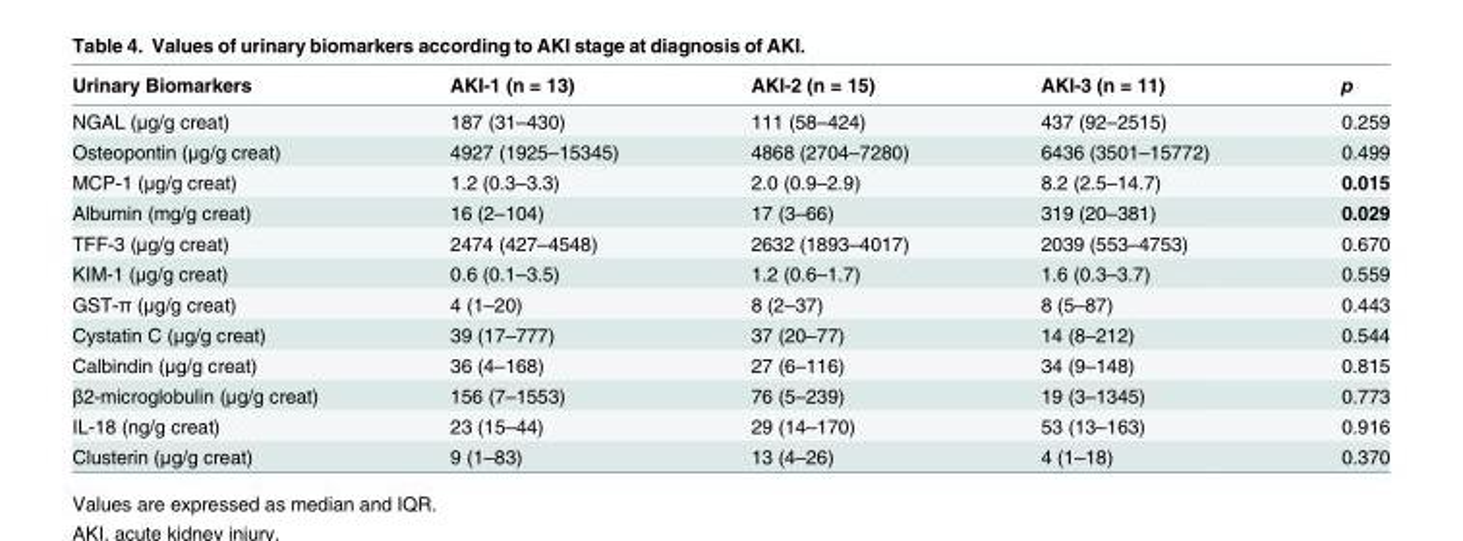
<table><thead><tr><td>Urinary Biomarkers</td><td>AKI-1 (n = 13)</td><td>AKI-2 (n = 15)</td><td>AKI-3 (n = 11)</td><td>p</td></tr></thead><tbody><tr><td>NGAL (μg/g creat)</td><td>187 (31–430)</td><td>111 (58–424)</td><td>437 (92–2515)</td><td>0.259</td></tr><tr><td>Osteopontin (μg/g creat)</td><td>4927 (1925–15345)</td><td>4868 (2704–7280)</td><td>6436 (3501–15772)</td><td>0.499</td></tr><tr><td>MCP-1 (μg/g creat)</td><td>1.2 (0.3–3.3)</td><td>2.0 (0.9–2.9)</td><td>8.2 (2.5–14.7)</td><td>0.015</td></tr><tr><td>Albumin (mg/g creat)</td><td>16 (2–104)</td><td>17 (3–66)</td><td>319 (20–381)</td><td>0.029</td></tr><tr><td>TFF-3 (μg/g creat)</td><td>2474 (427–4548)</td><td>2632 (1893–4017)</td><td>2039 (553–4753)</td><td>0.670</td></tr><tr><td>KIM-1 (μg/g creat)</td><td>0.6 (0.1–3.5)</td><td>1.2 (0.6–1.7)</td><td>1.6 (0.3–3.7)</td><td>0.559</td></tr><tr><td>GST-π (μg/g creat)</td><td>4 (1–20)</td><td>8 (2–37)</td><td>8 (5–87)</td><td>0.443</td></tr><tr><td>Cystatin C (μg/g creat)</td><td>39 (17–777)</td><td>37 (20–77)</td><td>14 (8–212)</td><td>0.544</td></tr><tr><td>Calbindin (μg/g creat)</td><td>36 (4–168)</td><td>27 (6–116)</td><td>34 (9–148)</td><td>0.815</td></tr><tr><td>β2-microglobulin (μg/g creat)</td><td>156 (7–1553)</td><td>76 (5–239)</td><td>19 (3–1345)</td><td>0.773</td></tr><tr><td>IL-18 (ng/g creat)</td><td>23 (15–44)</td><td>29 (14–170)</td><td>53 (13–163)</td><td>0.916</td></tr><tr><td>Clusterin (μg/g creat)</td><td>9 (1–83)</td><td>13 (4–26)</td><td>4 (1–18)</td><td>0.370</td></tr></tbody></table>